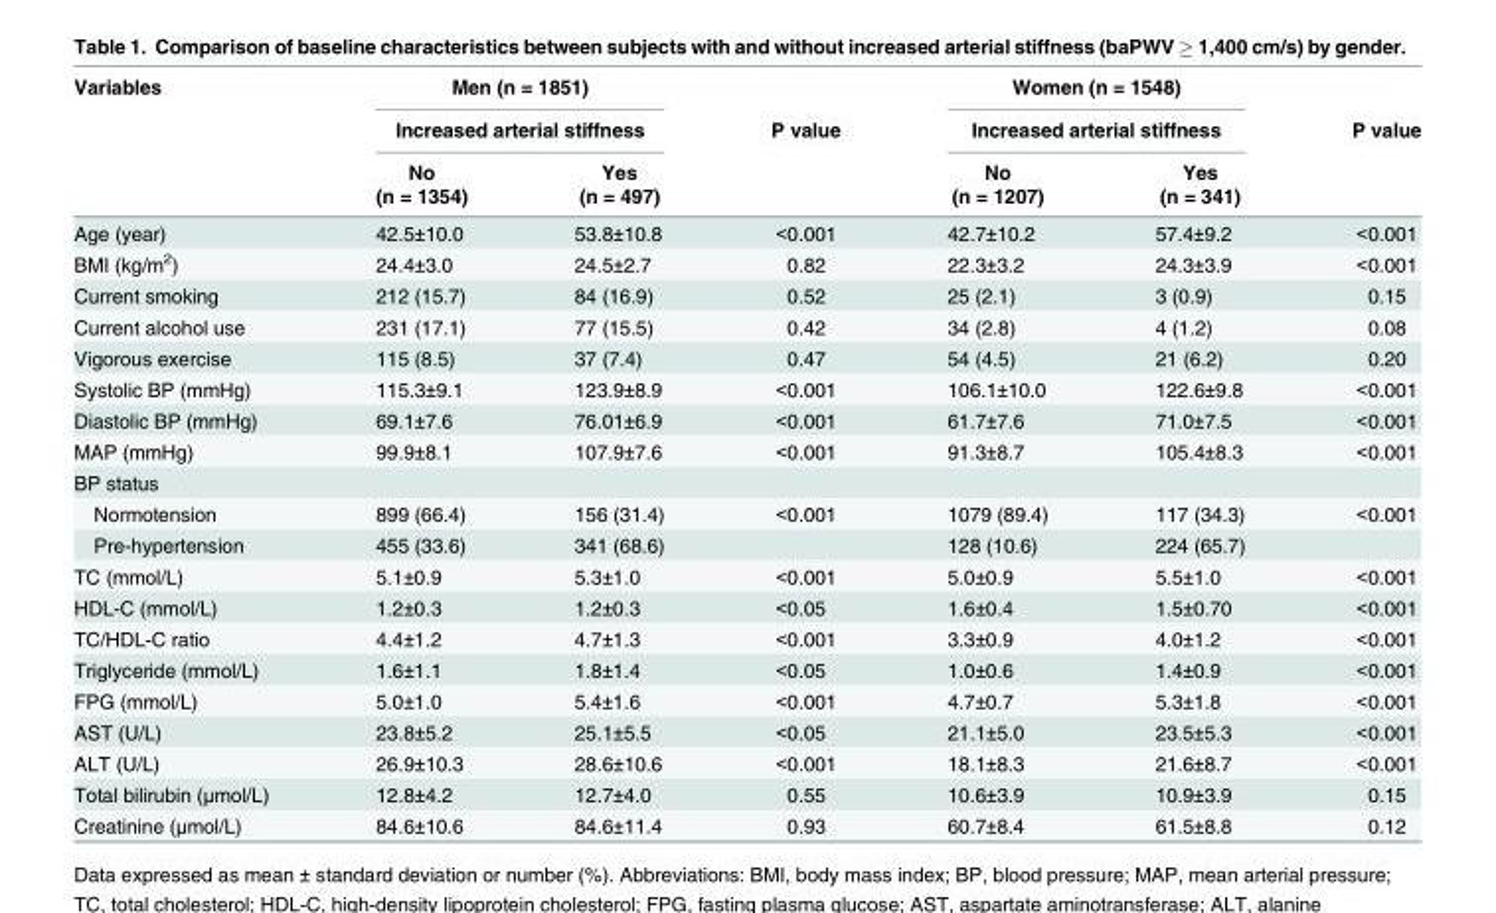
<table><thead><tr><td rowspan="4">Variables</td><td rowspan="2" colspan="2">Men (n = 1851) Increased arterial stiffness</td><td rowspan="4">P value</td><td rowspan="2" colspan="2">Women (n = 1548) Increased arterial stiffness</td><td rowspan="4">P value</td></tr><tr></tr><tr><td rowspan="2">No (n = 1354)</td><td rowspan="2">Yes (n = 497)</td><td rowspan="2">No (n = 1207)</td><td rowspan="2">Yes (n = 341)</td></tr><tr></tr></thead><tbody><tr><td>Age (year)</td><td>42.5±10.0</td><td>53.8±10.8</td><td>&lt;0.001</td><td>42.7±10.2</td><td>57.4±9.2</td><td>&lt;0.001</td></tr><tr><td>BMI (kg/m<sup>2</sup>)</td><td>24.4±3.0</td><td>24.5±2.7</td><td>0.82</td><td>22.3±3.2</td><td>24.3±3.9</td><td>&lt;0.001</td></tr><tr><td>Current smoking</td><td>212 (15.7)</td><td>84 (16.9)</td><td>0.52</td><td>25 (2.1)</td><td>3 (0.9)</td><td>0.15</td></tr><tr><td>Current alcohol use</td><td>231 (17.1)</td><td>77 (15.5)</td><td>0.42</td><td>34 (2.8)</td><td>4 (1.2)</td><td>0.08</td></tr><tr><td>Vigorous exercise</td><td>115 (8.5)</td><td>37 (7.4)</td><td>0.47</td><td>54 (4.5)</td><td>21 (6.2)</td><td>0.20</td></tr><tr><td>Systolic BP (mmHg)</td><td>115.3±9.1</td><td>123.9±8.9</td><td>&lt;0.001</td><td>106.1±10.0</td><td>122.6±9.8</td><td>&lt;0.001</td></tr><tr><td>Diastolic BP (mmHg)</td><td>69.1±7.6</td><td>76.01±6.9</td><td>&lt;0.001</td><td>61.7±7.6</td><td>71.0±7.5</td><td>&lt;0.001</td></tr><tr><td>MAP (mmHg)</td><td>99.9±8.1</td><td>107.9±7.6</td><td>&lt;0.001</td><td>91.3±8.7</td><td>105.4±8.3</td><td>&lt;0.001</td></tr><tr><td colspan="7">BP status</td></tr><tr><td>Normotension</td><td>899 (66.4)</td><td>156 (31.4)</td><td>&lt;0.001</td><td>1079 (89.4)</td><td>117 (34.3)</td><td>&lt;0.001</td></tr><tr><td>Pre-hypertension</td><td>455 (33.6)</td><td>341 (68.6)</td><td></td><td>128 (10.6)</td><td>224 (65.7)</td><td></td></tr><tr><td>TC (mmol/L)</td><td>5.1±0.9</td><td>5.3±1.0</td><td>&lt;0.001</td><td>5.0±0.9</td><td>5.5±1.0</td><td>&lt;0.001</td></tr><tr><td>HDL-C (mmol/L)</td><td>1.2±0.3</td><td>1.2±0.3</td><td>&lt;0.05</td><td>1.6±0.4</td><td>1.5±0.70</td><td>&lt;0.001</td></tr><tr><td>TC/HDL-C ratio</td><td>4.4±1.2</td><td>4.7±1.3</td><td>&lt;0.001</td><td>3.3±0.9</td><td>4.0±1.2</td><td>&lt;0.001</td></tr><tr><td>Triglyceride (mmol/L)</td><td>1.6±1.1</td><td>1.8±1.4</td><td>&lt;0.05</td><td>1.0±0.6</td><td>1.4±0.9</td><td>&lt;0.001</td></tr><tr><td>FPG (mmol/L)</td><td>5.0±1.0</td><td>5.4±1.6</td><td>&lt;0.001</td><td>4.7±0.7</td><td>5.3±1.8</td><td>&lt;0.001</td></tr><tr><td>AST (U/L)</td><td>23.8±5.2</td><td>25.1±5.5</td><td>&lt;0.05</td><td>21.1±5.0</td><td>23.5±5.3</td><td>&lt;0.001</td></tr><tr><td>ALT (U/L)</td><td>26.9±10.3</td><td>28.6±10.6</td><td>&lt;0.001</td><td>18.1±8.3</td><td>21.6±8.7</td><td>&lt;0.001</td></tr><tr><td>Total bilirubin (μmol/L)</td><td>12.8±4.2</td><td>12.7±4.0</td><td>0.55</td><td>10.6±3.9</td><td>10.9±3.9</td><td>0.15</td></tr><tr><td>Creatinine (μmol/L)</td><td>84.6±10.6</td><td>84.6±11.4</td><td>0.93</td><td>60.7±8.4</td><td>61.5±8.8</td><td>0.12</td></tr></tbody></table>